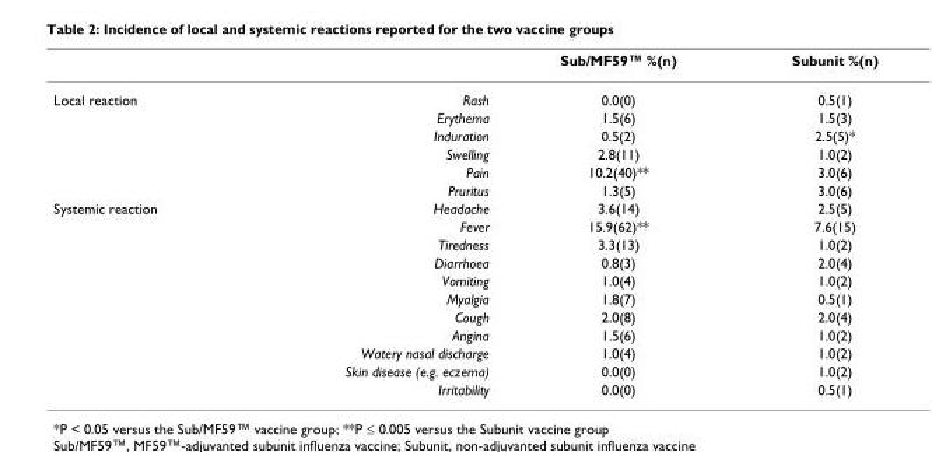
<table><thead><tr><td></td><td></td><td>Sub/MF59™ %(n)</td><td>Subunit %(n)</td></tr></thead><tbody><tr><td rowspan="6">Local reaction</td><td>Rash</td><td>0.0(0)</td><td>0.5(1)</td></tr><tr><td>Erythema</td><td>1.5(6)</td><td>1.5(3)</td></tr><tr><td>Induration</td><td>0.5(2)</td><td>2.5(5)*</td></tr><tr><td>Swelling</td><td>2.8(11)</td><td>1.0(2)</td></tr><tr><td>Pain</td><td>10.2(40)**</td><td>3.0(6)</td></tr><tr><td>Pruritus</td><td>1.3(5)</td><td>3.0(6)</td></tr><tr><td rowspan="11">Systemic reaction</td><td>Headache</td><td>3.6(14)</td><td>2.5(5)</td></tr><tr><td>Fever</td><td>15.9(62)**</td><td>7.6(15)</td></tr><tr><td>Tiredness</td><td>3.3(13)</td><td>1.0(2)</td></tr><tr><td>Diarrhoea</td><td>0.8(3)</td><td>2.0(4)</td></tr><tr><td>Vomiting</td><td>1.0(4)</td><td>1.0(2)</td></tr><tr><td>Myalgia</td><td>1.8(7)</td><td>0.5(1)</td></tr><tr><td>Cough</td><td>2.0(8)</td><td>2.0(4)</td></tr><tr><td>Angina</td><td>1.5(6)</td><td>1.0(2)</td></tr><tr><td>Watery nasal discharge</td><td>1.0(4)</td><td>1.0(2)</td></tr><tr><td>Skin disease (e.g. eczema)</td><td>0.0(0)</td><td>1.0(2)</td></tr><tr><td>Irritability</td><td>0.0(0)</td><td>0.5(1)</td></tr></tbody></table>